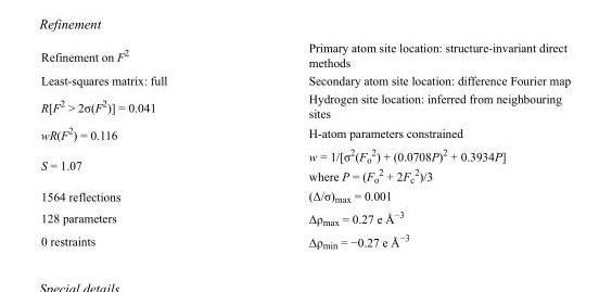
<table><tbody><tr><td>Refinement on F<sup>2</sup></td><td>Primary atom site location: structure-invariant direct methods</td></tr><tr><td>Least-squares matrix: full</td><td>Secondary atom site location: difference Fourier map</td></tr><tr><td>R[F<sup>2</sup> &gt; 2σ(F<sup>2</sup>)] = 0.041</td><td>Hydrogen site location: inferred from neighbouring sites</td></tr><tr><td>wR(F<sup>2</sup>) = 0.116</td><td>H-atom parameters constrained</td></tr><tr><td>S = 1.07</td><td>w = 1/[σ<sup>2</sup>(F<sub>o</sub> <sup>2</sup>) + (0.0708P)<sup>2</sup> + 0.3934P] where P = (F<sub>o</sub> <sup>2</sup> + 2F<sub>c</sub> <sup>2</sup>)/3</td></tr><tr><td>1564 reflections</td><td>(Δ/σ)<sub>max</sub> = 0.001</td></tr><tr><td>128 parameters</td><td>Δρ<sub>max</sub> = 0.27 e Å<sup>−3</sup></td></tr><tr><td>0 restraints</td><td>Δρ<sub>min</sub> = −0.27 e Å<sup>−3</sup></td></tr></tbody></table>